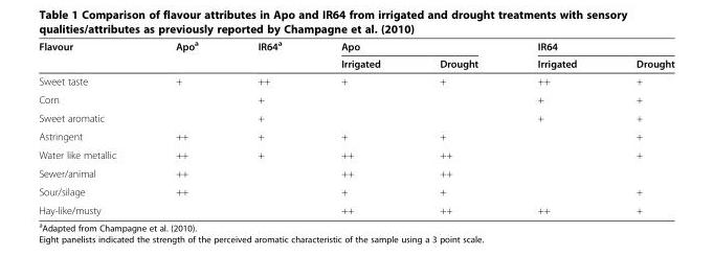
<table><thead><tr><td rowspan="2">Flavour</td><td rowspan="2">Apo<sup>a</sup></td><td rowspan="2">IR64<sup>a</sup></td><td colspan="2">Apo</td><td colspan="2">IR64</td></tr><tr><td>Irrigated</td><td>Drought</td><td>Irrigated</td><td>Drought</td></tr></thead><tbody><tr><td>Sweet taste</td><td>+</td><td>++</td><td>+</td><td>+</td><td>++</td><td>+</td></tr><tr><td>Corn</td><td></td><td>+</td><td></td><td></td><td>+</td><td>+</td></tr><tr><td>Sweet aromatic</td><td></td><td>+</td><td></td><td></td><td>+</td><td>+</td></tr><tr><td>Astringent</td><td>++</td><td>+</td><td>+</td><td>+</td><td></td><td>+</td></tr><tr><td>Water like metallic</td><td>++</td><td>+</td><td>++</td><td>++</td><td></td><td>+</td></tr><tr><td>Sewer/animal</td><td>++</td><td></td><td>++</td><td>++</td><td></td><td></td></tr><tr><td>Sour/silage</td><td>++</td><td></td><td>+</td><td>+</td><td></td><td>+</td></tr><tr><td>Hay-like/musty</td><td></td><td></td><td>++</td><td>++</td><td>++</td><td>+</td></tr></tbody></table>